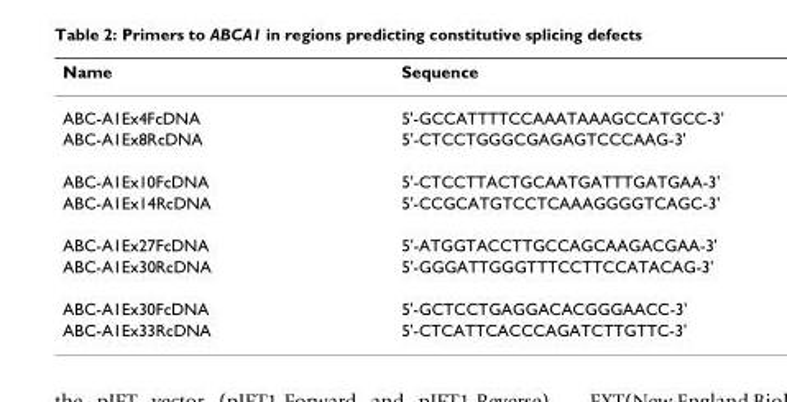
<table><thead><tr><td>Name</td><td>Sequence</td></tr></thead><tbody><tr><td>ABC-A1Ex4FcDNA</td><td>5&#x27;-GCCATTTTCCAAATAAAGCCATGCC-3&#x27;</td></tr><tr><td>ABC-A1Ex8RcDNA</td><td>5&#x27;-CTCCTGGGCGAGAGTCCCAAG-3&#x27;</td></tr><tr><td>ABC-A1Ex10FcDNA</td><td>5&#x27;-CTCCTTACTGCAATGATTTGATGAA-3&#x27;</td></tr><tr><td>ABC-A1Ex14RcDNA</td><td>5&#x27;-CCGCATGTCCTCAAAGGGGTCAGC-3&#x27;</td></tr><tr><td>ABC-A1Ex27FcDNA</td><td>5&#x27;-ATGGTACCTTGCCAGCAAGACGAA-3&#x27;</td></tr><tr><td>ABC-A1Ex30RcDNA</td><td>5&#x27;-GGGATTGGGTTTCCTTCCATACAG-3&#x27;</td></tr><tr><td>ABC-A1Ex30FcDNA</td><td>5&#x27;-GCTCCTGAGGACACGGGAACC-3&#x27;</td></tr><tr><td>ABC-A1Ex33RcDNA</td><td>5&#x27;-CTCATTCACCCAGATCTTGTTC-3&#x27;</td></tr></tbody></table>